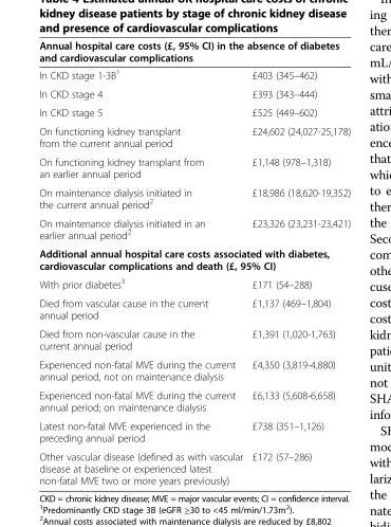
<table><thead><tr><td colspan="2">Annual hospital care costs (£, 95% CI) in the absence of diabetes and cardiovascular complications</td></tr><tr><td>In CKD stage 1-3B<sup>1</sup></td><td>£403 (345–462)</td></tr></thead><tbody><tr><td>In CKD stage 4</td><td>£393 (343–444)</td></tr><tr><td>In CKD stage 5</td><td>£525 (449–602)</td></tr><tr><td>On functioning kidney transplant from the current annual period</td><td>£24,602 (24,027-25,178)</td></tr><tr><td>On functioning kidney transplant from an earlier annual period</td><td>£1,148 (978–1,318)</td></tr><tr><td>On maintenance dialysis initiated in the current annual period<sup>2</sup></td><td>£18,986 (18,620-19,352)</td></tr><tr><td>On maintenance dialysis initiated in an earlier annual period<sup>2</sup></td><td>£23,326 (23,231-23,421)</td></tr><tr><td colspan="2">Additional annual hospital care costs associated with diabetes, cardiovascular complications and death (£, 95% CI)</td></tr><tr><td>With prior diabetes<sup>3</sup></td><td>£171 (54–288)</td></tr><tr><td>Died from vascular cause in the current annual period</td><td>£1,137 (469–1,804)</td></tr><tr><td>Died from non-vascular cause in the current annual period</td><td>£1,391 (1,020-1,763)</td></tr><tr><td>Experienced non-fatal MVE during the current annual period, not on maintenance dialysis</td><td>£4,350 (3,819-4,880)</td></tr><tr><td>Experienced non-fatal MVE during the current annual period; on maintenance dialysis</td><td>£6,133 (5,608-6,658)</td></tr><tr><td>Latest non-fatal MVE experienced in the preceding annual period</td><td>£738 (351–1,126)</td></tr><tr><td>Other vascular disease (defined as with vascular disease at baseline or experienced latest non-fatal MVE two or more years previously)</td><td>£172 (57–286)</td></tr></tbody></table>